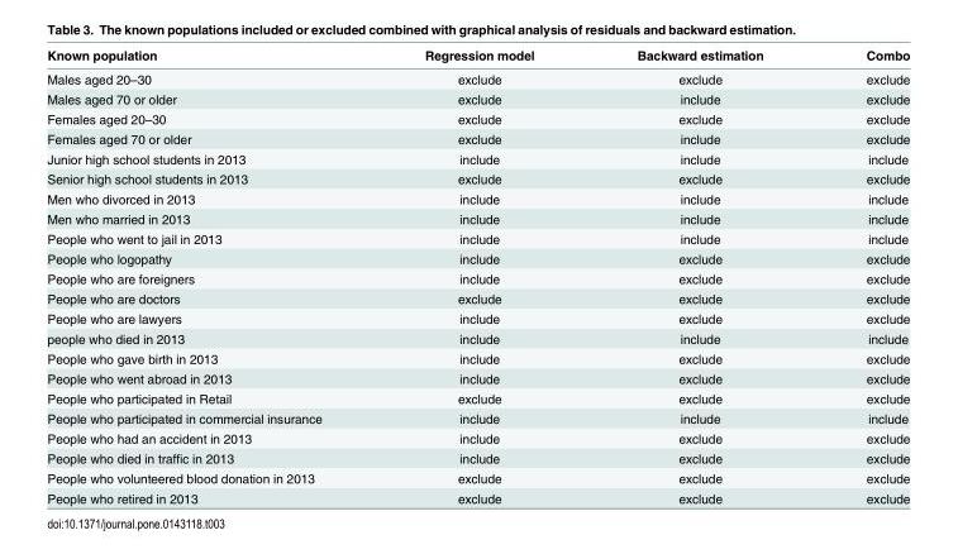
<table><thead><tr><td>Known population</td><td>Regression model</td><td>Backward estimation</td><td>Combo</td></tr></thead><tbody><tr><td>Males aged 20–30</td><td>exclude</td><td>exclude</td><td>exclude</td></tr><tr><td>Males aged 70 or older</td><td>exclude</td><td>include</td><td>exclude</td></tr><tr><td>Females aged 20–30</td><td>exclude</td><td>exclude</td><td>exclude</td></tr><tr><td>Females aged 70 or older</td><td>exclude</td><td>include</td><td>exclude</td></tr><tr><td>Junior high school students in 2013</td><td>include</td><td>include</td><td>include</td></tr><tr><td>Senior high school students in 2013</td><td>exclude</td><td>exclude</td><td>exclude</td></tr><tr><td>Men who divorced in 2013</td><td>include</td><td>include</td><td>include</td></tr><tr><td>Men who married in 2013</td><td>include</td><td>include</td><td>include</td></tr><tr><td>People who went to jail in 2013</td><td>include</td><td>include</td><td>include</td></tr><tr><td>People who logopathy</td><td>include</td><td>exclude</td><td>exclude</td></tr><tr><td>People who are foreigners</td><td>include</td><td>exclude</td><td>exclude</td></tr><tr><td>People who are doctors</td><td>exclude</td><td>exclude</td><td>exclude</td></tr><tr><td>People who are lawyers</td><td>include</td><td>exclude</td><td>exclude</td></tr><tr><td>people who died in 2013</td><td>include</td><td>include</td><td>include</td></tr><tr><td>People who gave birth in 2013</td><td>include</td><td>exclude</td><td>exclude</td></tr><tr><td>People who went abroad in 2013</td><td>include</td><td>exclude</td><td>exclude</td></tr><tr><td>People who participated in Retail</td><td>exclude</td><td>exclude</td><td>exclude</td></tr><tr><td>People who participated in commercial insurance</td><td>include</td><td>include</td><td>include</td></tr><tr><td>People who had an accident in 2013</td><td>include</td><td>exclude</td><td>exclude</td></tr><tr><td>People who died in traffic in 2013</td><td>include</td><td>exclude</td><td>exclude</td></tr><tr><td>People who volunteered blood donation in 2013</td><td>exclude</td><td>exclude</td><td>exclude</td></tr><tr><td>People who retired in 2013</td><td>exclude</td><td>exclude</td><td>exclude</td></tr></tbody></table>